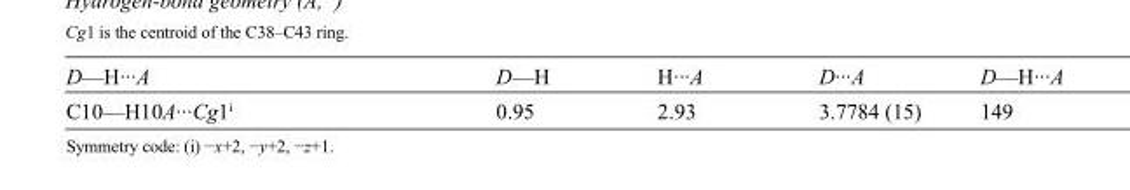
<table><tbody><tr><td>D—H···A</td><td>D—H</td><td>H···A</td><td>D···A</td><td>D—H···A</td></tr><tr><td>C10—H10A···Cg1<sup>i</sup></td><td>0.95</td><td>2.93</td><td>3.7784 (15)</td><td>149</td></tr></tbody></table>